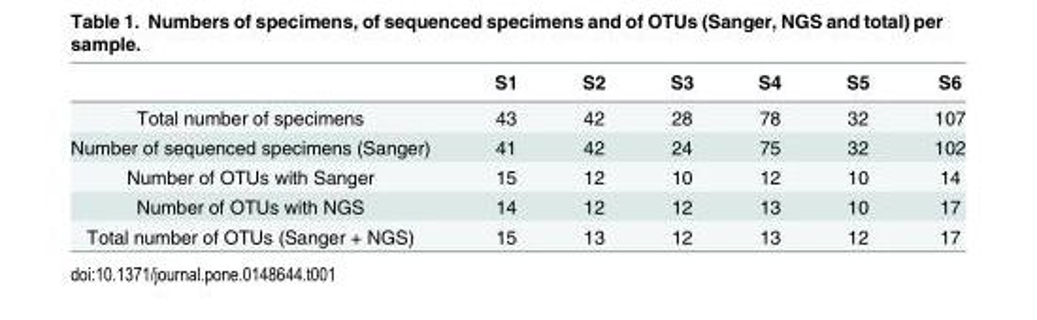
<table><thead><tr><td></td><td>S1</td><td>S2</td><td>S3</td><td>S4</td><td>S5</td><td>S6</td></tr></thead><tbody><tr><td>Total number of specimens</td><td>43</td><td>42</td><td>28</td><td>78</td><td>32</td><td>107</td></tr><tr><td>Number of sequenced specimens (Sanger)</td><td>41</td><td>42</td><td>24</td><td>75</td><td>32</td><td>102</td></tr><tr><td>Number of OTUs with Sanger</td><td>15</td><td>12</td><td>10</td><td>12</td><td>10</td><td>14</td></tr><tr><td>Number of OTUs with NGS</td><td>14</td><td>12</td><td>12</td><td>13</td><td>10</td><td>17</td></tr><tr><td>Total number of OTUs (Sanger + NGS)</td><td>15</td><td>13</td><td>12</td><td>13</td><td>12</td><td>17</td></tr></tbody></table>